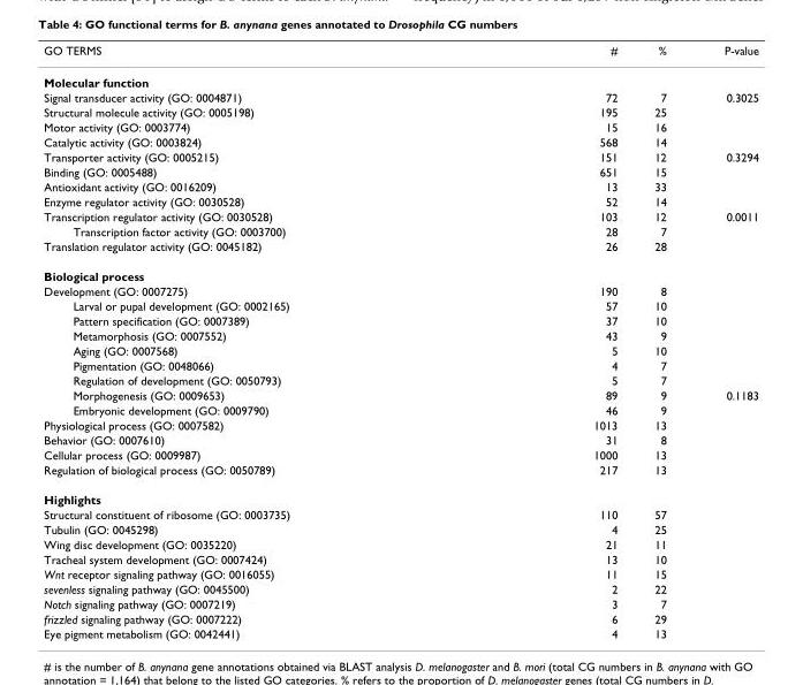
<table><thead><tr><td>GO TERMS</td><td>#</td><td>%</td><td>P-value</td></tr></thead><tbody><tr><td colspan="4">Molecular function</td></tr><tr><td>Signal transducer activity (GO: 0004871)</td><td>72</td><td>7</td><td>0.3025</td></tr><tr><td>Structural molecule activity (GO: 0005198)</td><td>195</td><td>25</td><td></td></tr><tr><td>Motor activity (GO: 0003774)</td><td>15</td><td>16</td><td></td></tr><tr><td>Catalytic activity (GO: 0003824)</td><td>568</td><td>14</td><td></td></tr><tr><td>Transporter activity (GO: 0005215)</td><td>151</td><td>12</td><td>0.3294</td></tr><tr><td>Binding (GO: 0005488)</td><td>651</td><td>15</td><td></td></tr><tr><td>Antioxidant activity (GO: 0016209)</td><td>13</td><td>33</td><td></td></tr><tr><td>Enzyme regulator activity (GO: 0030528)</td><td>52</td><td>14</td><td></td></tr><tr><td>Transcription regulator activity (GO: 0030528)</td><td>103</td><td>12</td><td>0.0011</td></tr><tr><td>Transcription factor activity (GO: 0003700)</td><td>28</td><td>7</td><td></td></tr><tr><td>Translation regulator activity (GO: 0045182)</td><td>26</td><td>28</td><td></td></tr><tr><td colspan="4">Biological process</td></tr><tr><td>Development (GO: 0007275)</td><td>190</td><td>8</td><td></td></tr><tr><td>Larval or pupal development (GO: 0002165)</td><td>57</td><td>10</td><td></td></tr><tr><td>Pattern specification (GO: 0007389)</td><td>37</td><td>10</td><td></td></tr><tr><td>Metamorphosis (GO: 0007552)</td><td>43</td><td>9</td><td></td></tr><tr><td>Aging (GO: 0007568)</td><td>5</td><td>10</td><td></td></tr><tr><td>Pigmentation (GO: 0048066)</td><td>4</td><td>7</td><td></td></tr><tr><td>Regulation of development (GO: 0050793)</td><td>5</td><td>7</td><td></td></tr><tr><td>Morphogenesis (GO: 0009653)</td><td>89</td><td>9</td><td>0.1183</td></tr><tr><td>Embryonic development (GO: 0009790)</td><td>46</td><td>9</td><td></td></tr><tr><td>Physiological process (GO: 0007582)</td><td>1013</td><td>13</td><td></td></tr><tr><td>Behavior (GO: 0007610)</td><td>31</td><td>8</td><td></td></tr><tr><td>Cellular process (GO: 0009987)</td><td>1000</td><td>13</td><td></td></tr><tr><td>Regulation of biological process (GO: 0050789)</td><td>217</td><td>13</td><td></td></tr><tr><td colspan="4">Highlights</td></tr><tr><td>Structural constituent of ribosome (GO: 0003735)</td><td>110</td><td>57</td><td></td></tr><tr><td>Tubulin (GO: 0045298)</td><td>4</td><td>25</td><td></td></tr><tr><td>Wing disc development (GO: 0035220)</td><td>21</td><td>11</td><td></td></tr><tr><td>Tracheal system development (GO: 0007424)</td><td>13</td><td>10</td><td></td></tr><tr><td>Wnt receptor signaling pathway (GO: 0016055)</td><td>11</td><td>15</td><td></td></tr><tr><td>sevenless signaling pathway (GO: 0045500)</td><td>2</td><td>22</td><td></td></tr><tr><td>Notch signaling pathway (GO: 0007219)</td><td>3</td><td>7</td><td></td></tr><tr><td>frizzled signaling pathway (GO: 0007222)</td><td>6</td><td>29</td><td></td></tr><tr><td>Eye pigment metabolism (GO: 0042441)</td><td>4</td><td>13</td><td></td></tr></tbody></table>